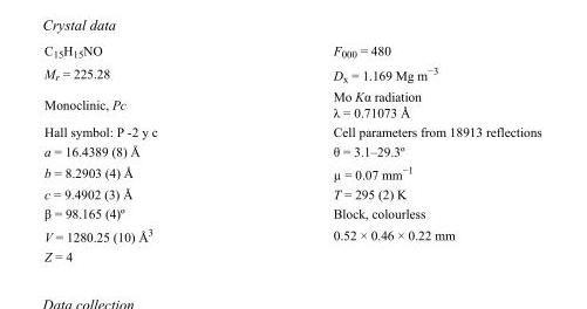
<table><tbody><tr><td>C<sub>15</sub>H<sub>15</sub>NO</td><td>F<sub>000</sub> = 480</td></tr><tr><td>M<sub>r</sub> = 225.28</td><td>D<sub>x</sub> = 1.169 Mg m<sup>−3</sup></td></tr><tr><td>Monoclinic, Pc</td><td>Mo Kα radiation λ = 0.71073 Å</td></tr><tr><td>Hall symbol: P -2 y c</td><td>Cell parameters from 18913 reflections</td></tr><tr><td>a = 16.4389 (8) Å</td><td>θ = 3.1–29.3º</td></tr><tr><td>b = 8.2903 (4) Å</td><td>µ = 0.07 mm<sup>−1</sup></td></tr><tr><td>c = 9.4902 (3) Å</td><td>T = 295 (2) K</td></tr><tr><td>β = 98.165 (4)º</td><td>Block, colourless</td></tr><tr><td>V = 1280.25 (10) Å<sup>3</sup></td><td>0.52 × 0.46 × 0.22 mm</td></tr><tr><td>Z = 4</td><td></td></tr></tbody></table>